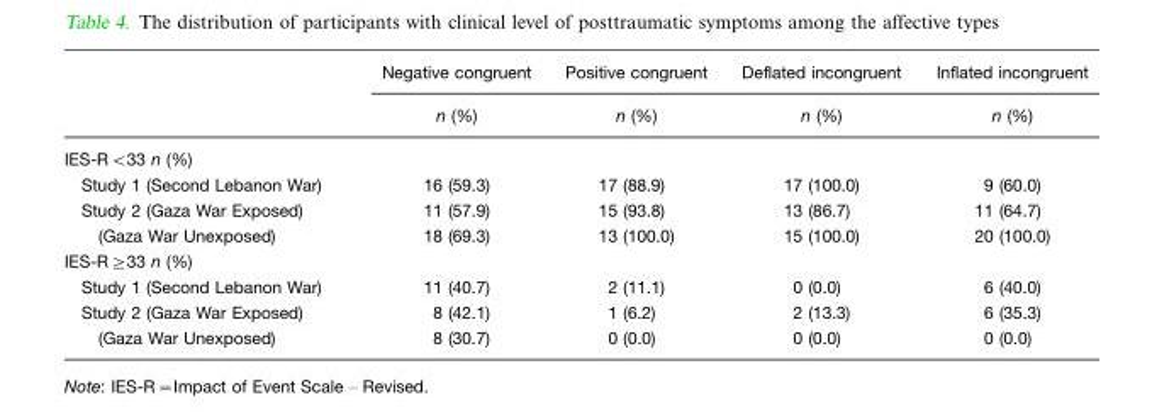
<table><thead><tr><td rowspan="2"></td><td rowspan="2">Negative congruent n (%)</td><td rowspan="2">Positive congruent n (%)</td><td rowspan="2">Deflated incongruent n (%)</td><td rowspan="2">Inflated incongruent n (%)</td></tr><tr></tr></thead><tbody><tr><td colspan="5">IES-R&lt;33 n (%)</td></tr><tr><td>Study 1 (Second Lebanon War)</td><td>16 (59.3)</td><td>17 (88.9)</td><td>17 (100.0)</td><td>9 (60.0)</td></tr><tr><td>Study 2 (Gaza War Exposed)</td><td>11 (57.9)</td><td>15 (93.8)</td><td>13 (86.7)</td><td>11 (64.7)</td></tr><tr><td>(Gaza War Unexposed)</td><td>18 (69.3)</td><td>13 (100.0)</td><td>15 (100.0)</td><td>20 (100.0)</td></tr><tr><td colspan="5">IES-R≥33 n (%)</td></tr><tr><td>Study 1 (Second Lebanon War)</td><td>11 (40.7)</td><td>2 (11.1)</td><td>0 (0.0)</td><td>6 (40.0)</td></tr><tr><td>Study 2 (Gaza War Exposed)</td><td>8 (42.1)</td><td>1 (6.2)</td><td>2 (13.3)</td><td>6 (35.3)</td></tr><tr><td>(Gaza War Unexposed)</td><td>8 (30.7)</td><td>0 (0.0)</td><td>0 (0.0)</td><td>0 (0.0)</td></tr></tbody></table>